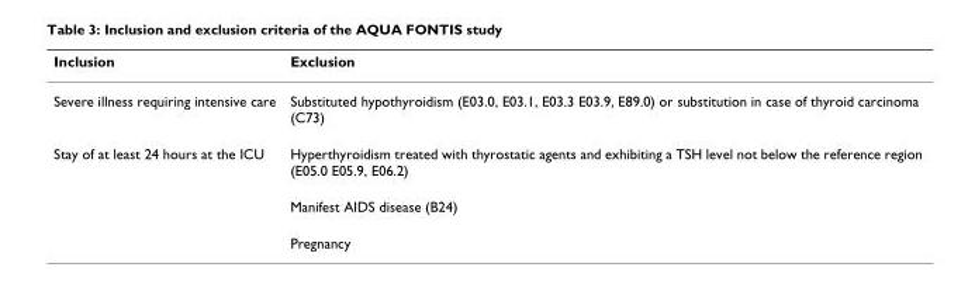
<table><thead><tr><td>Inclusion</td><td>Exclusion</td></tr></thead><tbody><tr><td>Severe illness requiring intensive care</td><td>Substituted hypothyroidism (E03.0, E03.1, E03.3 E03.9, E89.0) or substitution in case of thyroid carcinoma (C73)</td></tr><tr><td rowspan="3">Stay of at least 24 hours at the ICU</td><td>Hyperthyroidism treated with thyrostatic agents and exhibiting a TSH level not below the reference region (E05.0 E05.9, E06.2)</td></tr><tr><td>Manifest AIDS disease (B24)</td></tr><tr><td>Pregnancy</td></tr></tbody></table>